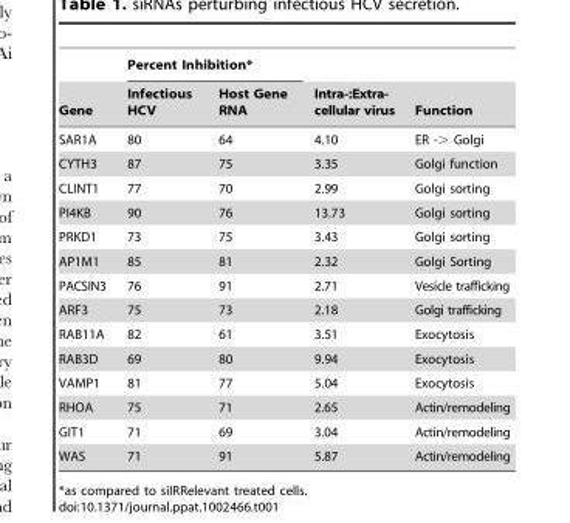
<table><thead><tr><td rowspan="2">Gene</td><td colspan="2">Percent Inhibition*</td><td rowspan="2">Intra-:Extra- cellular virus</td><td rowspan="2">Function</td></tr><tr><td>Infectious HCV</td><td>Host Gene RNA</td></tr></thead><tbody><tr><td>SAR1A</td><td>80</td><td>64</td><td>4.10</td><td>ER -&gt; Golgi</td></tr><tr><td>CYTH3</td><td>87</td><td>75</td><td>3.35</td><td>Golgi function</td></tr><tr><td>CLINT1</td><td>77</td><td>70</td><td>2.99</td><td>Golgi sorting</td></tr><tr><td>PI4KB</td><td>90</td><td>76</td><td>13.73</td><td>Golgi sorting</td></tr><tr><td>PRKD1</td><td>73</td><td>75</td><td>3.43</td><td>Golgi sorting</td></tr><tr><td>AP1M1</td><td>85</td><td>81</td><td>2.32</td><td>Golgi Sorting</td></tr><tr><td>PACSIN3</td><td>76</td><td>91</td><td>2.71</td><td>Vesicle trafficking</td></tr><tr><td>ARF3</td><td>75</td><td>73</td><td>2.18</td><td>Golgi trafficking</td></tr><tr><td>RAB11A</td><td>82</td><td>61</td><td>3.51</td><td>Exocytosis</td></tr><tr><td>RAB3D</td><td>69</td><td>80</td><td>9.94</td><td>Exocytosis</td></tr><tr><td>VAMP1</td><td>81</td><td>77</td><td>5.04</td><td>Exocytosis</td></tr><tr><td>RHOA</td><td>75</td><td>71</td><td>2.65</td><td>Actin/remodeling</td></tr><tr><td>GIT1</td><td>71</td><td>69</td><td>3.04</td><td>Actin/remodeling</td></tr><tr><td>WAS</td><td>71</td><td>91</td><td>5.87</td><td>Actin/remodeling</td></tr></tbody></table>